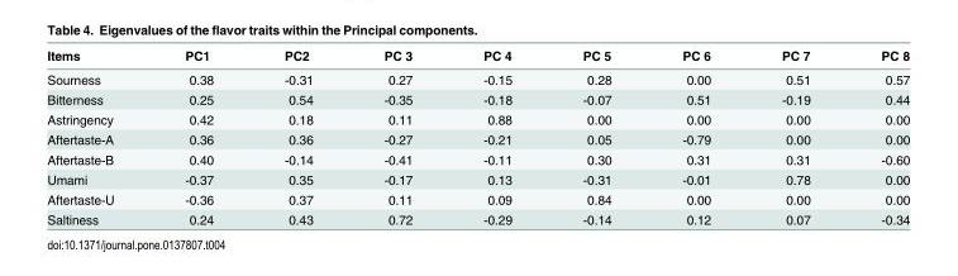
<table><thead><tr><td>Items</td><td>PC1</td><td>PC2</td><td>PC 3</td><td>PC 4</td><td>PC 5</td><td>PC 6</td><td>PC 7</td><td>PC 8</td></tr></thead><tbody><tr><td>Sourness</td><td>0.38</td><td>-0.31</td><td>0.27</td><td>-0.15</td><td>0.28</td><td>0.00</td><td>0.51</td><td>0.57</td></tr><tr><td>Bitterness</td><td>0.25</td><td>0.54</td><td>-0.35</td><td>-0.18</td><td>-0.07</td><td>0.51</td><td>-0.19</td><td>0.44</td></tr><tr><td>Astringency</td><td>0.42</td><td>0.18</td><td>0.11</td><td>0.88</td><td>0.00</td><td>0.00</td><td>0.00</td><td>0.00</td></tr><tr><td>Aftertaste-A</td><td>0.36</td><td>0.36</td><td>-0.27</td><td>-0.21</td><td>0.05</td><td>-0.79</td><td>0.00</td><td>0.00</td></tr><tr><td>Aftertaste-B</td><td>0.40</td><td>-0.14</td><td>-0.41</td><td>-0.11</td><td>0.30</td><td>0.31</td><td>0.31</td><td>-0.60</td></tr><tr><td>Umami</td><td>-0.37</td><td>0.35</td><td>-0.17</td><td>0.13</td><td>-0.31</td><td>-0.01</td><td>0.78</td><td>0.00</td></tr><tr><td>Aftertaste-U</td><td>-0.36</td><td>0.37</td><td>0.11</td><td>0.09</td><td>0.84</td><td>0.00</td><td>0.00</td><td>0.00</td></tr><tr><td>Saltiness</td><td>0.24</td><td>0.43</td><td>0.72</td><td>-0.29</td><td>-0.14</td><td>0.12</td><td>0.07</td><td>-0.34</td></tr></tbody></table>